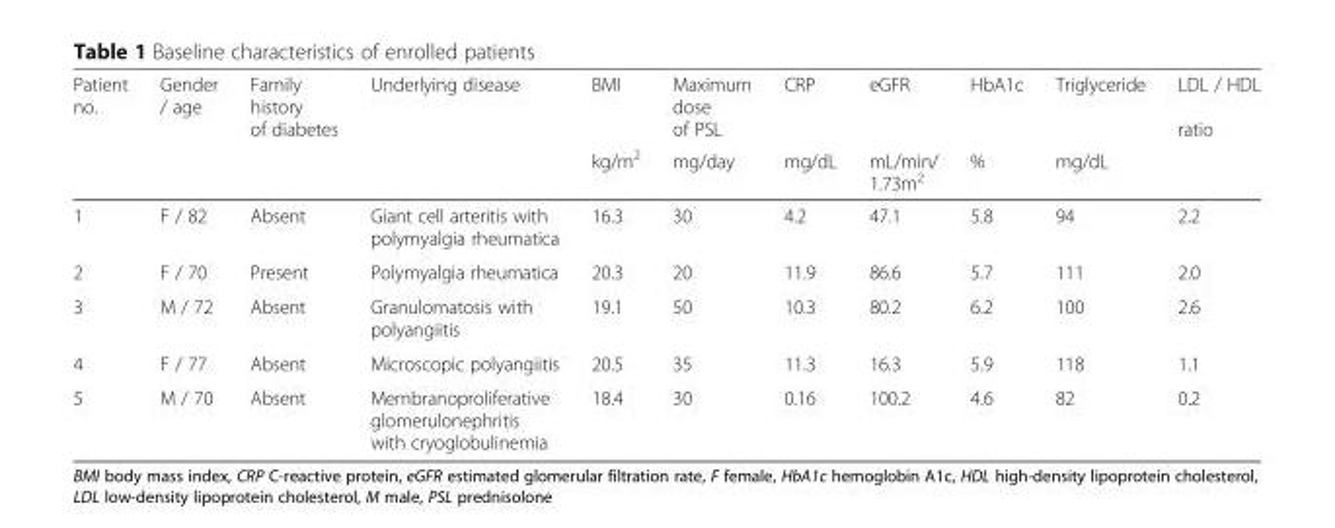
<table><thead><tr><td rowspan="2">Patient no.</td><td rowspan="2">Gender / age</td><td rowspan="2">Family history of diabetes</td><td rowspan="2">Underlying disease</td><td rowspan="2">BMI kg/m<sup>2</sup></td><td rowspan="2">Maximum dose of PSL mg/day</td><td rowspan="2">CRP mg/dL</td><td rowspan="2">eGFR mL/min/ 1.73m<sup>2</sup></td><td rowspan="2">HbA1c %</td><td rowspan="2">Triglyceride mg/dL</td><td rowspan="2">LDL / HDL ratio</td></tr><tr></tr></thead><tbody><tr><td>1</td><td>F / 82</td><td>Absent</td><td>Giant cell arteritis with polymyalgia rheumatica</td><td>16.3</td><td>30</td><td>4.2</td><td>47.1</td><td>5.8</td><td>94</td><td>2.2</td></tr><tr><td>2</td><td>F / 70</td><td>Present</td><td>Polymyalgia rheumatica</td><td>20.3</td><td>20</td><td>11.9</td><td>86.6</td><td>5.7</td><td>111</td><td>2.0</td></tr><tr><td>3</td><td>M / 72</td><td>Absent</td><td>Granulomatosis with polyangiitis</td><td>19.1</td><td>50</td><td>10.3</td><td>80.2</td><td>6.2</td><td>100</td><td>2.6</td></tr><tr><td>4</td><td>F / 77</td><td>Absent</td><td>Microscopic polyangiitis</td><td>20.5</td><td>35</td><td>11.3</td><td>16.3</td><td>5.9</td><td>118</td><td>1.1</td></tr><tr><td>5</td><td>M / 70</td><td>Absent</td><td>Membranoproliferative glomerulonephritis with cryoglobulinemia</td><td>18.4</td><td>30</td><td>0.16</td><td>100.2</td><td>4.6</td><td>82</td><td>0.2</td></tr></tbody></table>